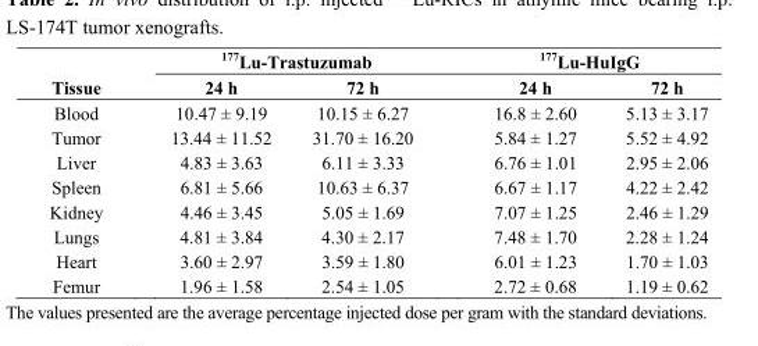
<table><thead><tr><td rowspan="2">Tissue</td><td colspan="2"><sup>177</sup>Lu-Trastuzumab</td><td colspan="2"><sup>177</sup>Lu-HuIgG</td></tr><tr><td>24 h</td><td>72 h</td><td>24 h</td><td>72 h</td></tr></thead><tbody><tr><td>Blood</td><td>10.47 ± 9.19</td><td>10.15 ± 6.27</td><td>16.8 ± 2.60</td><td>5.13 ± 3.17</td></tr><tr><td>Tumor</td><td>13.44 ± 11.52</td><td>31.70 ± 16.20</td><td>5.84 ± 1.27</td><td>5.52 ± 4.92</td></tr><tr><td>Liver</td><td>4.83 ± 3.63</td><td>6.11 ± 3.33</td><td>6.76 ± 1.01</td><td>2.95 ± 2.06</td></tr><tr><td>Spleen</td><td>6.81 ± 5.66</td><td>10.63 ± 6.37</td><td>6.67 ± 1.17</td><td>4.22 ± 2.42</td></tr><tr><td>Kidney</td><td>4.46 ± 3.45</td><td>5.05 ± 1.69</td><td>7.07 ± 1.25</td><td>2.46 ± 1.29</td></tr><tr><td>Lungs</td><td>4.81 ± 3.84</td><td>4.30 ± 2.17</td><td>7.48 ± 1.70</td><td>2.28 ± 1.24</td></tr><tr><td>Heart</td><td>3.60 ± 2.97</td><td>3.59 ± 1.80</td><td>6.01 ± 1.23</td><td>1.70 ± 1.03</td></tr><tr><td>Femur</td><td>1.96 ± 1.58</td><td>2.54 ± 1.05</td><td>2.72 ± 0.68</td><td>1.19 ± 0.62</td></tr></tbody></table>